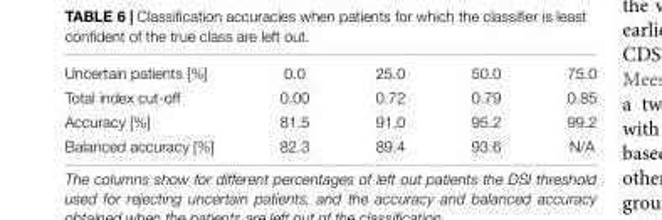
<table><tbody><tr><td>Uncertain patients [%]</td><td>0.0</td><td>25.0</td><td>50.0</td><td>75.0</td></tr><tr><td>Total index cut-off</td><td>0.00</td><td>0.72</td><td>0.79</td><td>0.85</td></tr><tr><td>Accuracy [%]</td><td>81.5</td><td>91.0</td><td>95.2</td><td>99.2</td></tr><tr><td>Balanced accuracy [%]</td><td>82.3</td><td>89.4</td><td>93.6</td><td>N/A</td></tr></tbody></table>